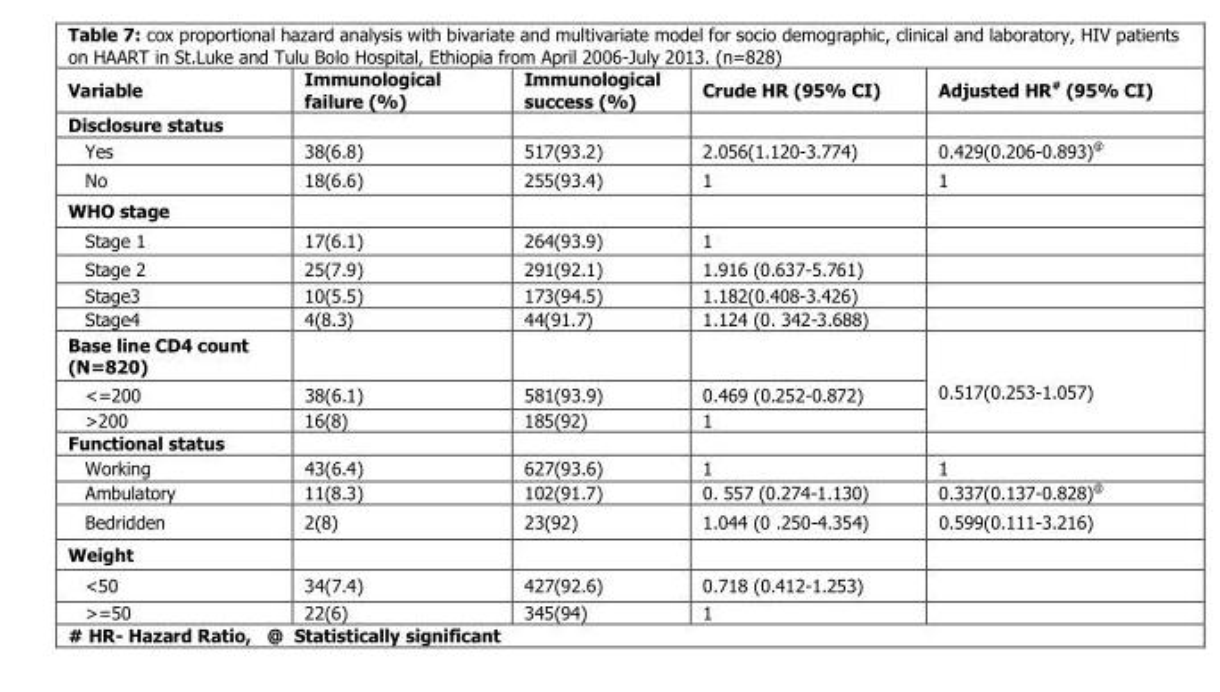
<table><thead><tr><td>Variable</td><td>Immunological failure (%)</td><td>Immunological success (%)</td><td>Crude HR (95% CI)</td><td>Adjusted HR# (95% CI)</td></tr></thead><tbody><tr><td colspan="5">Disclosure status</td></tr><tr><td>Yes</td><td>38(6.8)</td><td>517(93.2)</td><td>2.056(1.120-3.774)</td><td>0.429(0.206-0.893)@</td></tr><tr><td>No</td><td>18(6.6)</td><td>255(93.4)</td><td>1</td><td>1</td></tr><tr><td colspan="5">WHO stage</td></tr><tr><td>Stage 1</td><td>17(6.1)</td><td>264(93.9)</td><td>1</td><td></td></tr><tr><td>Stage 2</td><td>25(7.9)</td><td>291(92.1)</td><td>1.916 (0.637-5.761)</td><td></td></tr><tr><td>Stage3</td><td>10(5.5)</td><td>173(94.5)</td><td>1.182(0.408-3.426)</td><td></td></tr><tr><td>Stage4</td><td>4(8.3)</td><td>44(91.7)</td><td>1.124 (0. 342-3.688)</td><td></td></tr><tr><td colspan="4">Base line CD4 count (N=820)</td><td rowspan="3">0.517(0.253-1.057)</td></tr><tr><td>&lt;=200</td><td>38(6.1)</td><td>581(93.9)</td><td>0.469 (0.252-0.872)</td></tr><tr><td>&gt;200</td><td>16(8)</td><td>185(92)</td><td>1</td></tr><tr><td colspan="5">Functional status</td></tr><tr><td>Working</td><td>43(6.4)</td><td>627(93.6)</td><td>1</td><td>1</td></tr><tr><td>Ambulatory</td><td>11(8.3)</td><td>102(91.7)</td><td>0. 557 (0.274-1.130)</td><td>0.337(0.137-0.828)@</td></tr><tr><td>Bedridden</td><td>2(8)</td><td>23(92)</td><td>1.044 (0 .250-4.354)</td><td>0.599(0.111-3.216)</td></tr><tr><td colspan="5">Weight</td></tr><tr><td>&lt;50</td><td>34(7.4)</td><td>427(92.6)</td><td>0.718 (0.412-1.253)</td><td></td></tr><tr><td>&gt;=50</td><td>22(6)</td><td>345(94)</td><td>1</td><td></td></tr></tbody></table>